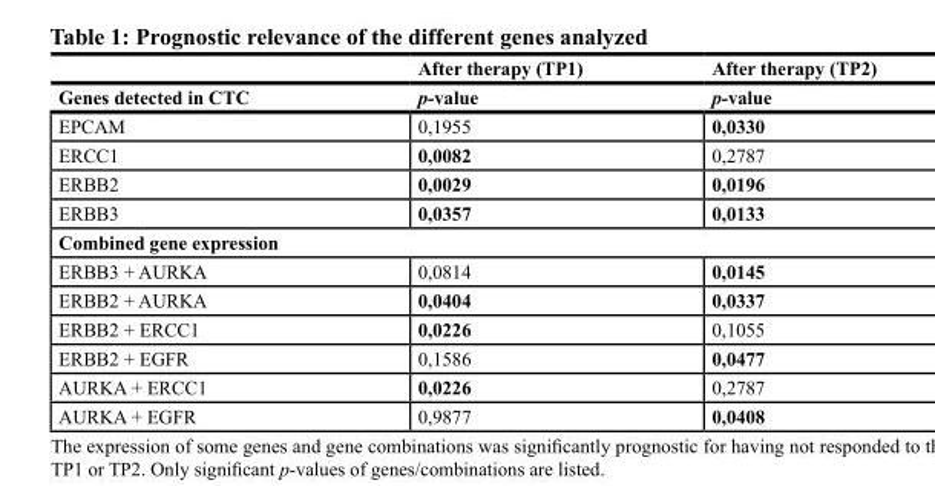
<table><thead><tr><td rowspan="2">Genes detected in CTC</td><td rowspan="2">After therapy (TP1) p-value</td><td rowspan="2">After therapy (TP2) p-value</td></tr><tr></tr></thead><tbody><tr><td>EPCAM</td><td>0,1955</td><td>0,0330</td></tr><tr><td>ERCC1</td><td>0,0082</td><td>0,2787</td></tr><tr><td>ERBB2</td><td>0,0029</td><td>0,0196</td></tr><tr><td>ERBB3</td><td>0,0357</td><td>0,0133</td></tr><tr><td colspan="3">Combined gene expression</td></tr><tr><td>ERBB3 + AURKA</td><td>0,0814</td><td>0,0145</td></tr><tr><td>ERBB2 + AURKA</td><td>0,0404</td><td>0,0337</td></tr><tr><td>ERBB2 + ERCC1</td><td>0,0226</td><td>0,1055</td></tr><tr><td>ERBB2 + EGFR</td><td>0,1586</td><td>0,0477</td></tr><tr><td>AURKA + ERCC1</td><td>0,0226</td><td>0,2787</td></tr><tr><td>AURKA + EGFR</td><td>0,9877</td><td>0,0408</td></tr></tbody></table>